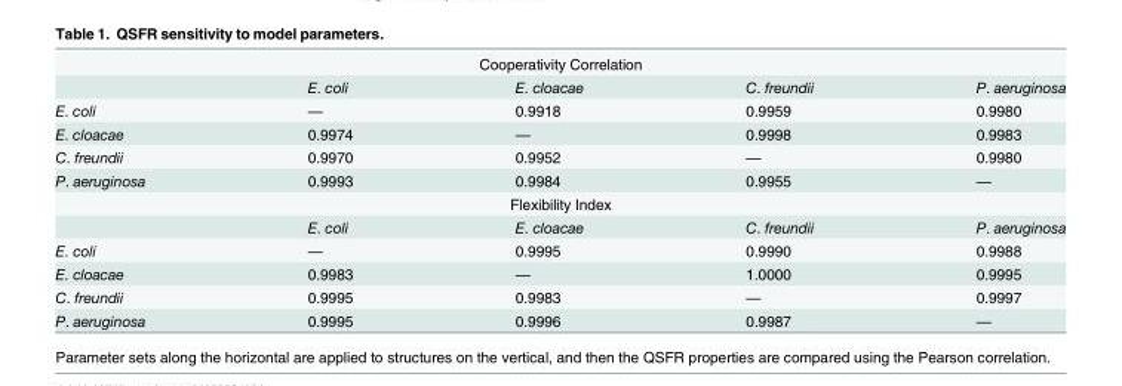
<table><tbody><tr><td colspan="5">Cooperativity Correlation</td></tr><tr><td></td><td>E. coli</td><td>E. cloacae</td><td>C. freundii</td><td>P. aeruginosa</td></tr><tr><td>E. coli</td><td>—</td><td>0.9918</td><td>0.9959</td><td>0.9980</td></tr><tr><td>E. cloacae</td><td>0.9974</td><td>—</td><td>0.9998</td><td>0.9983</td></tr><tr><td>C. freundii</td><td>0.9970</td><td>0.9952</td><td>—</td><td>0.9980</td></tr><tr><td>P. aeruginosa</td><td>0.9993</td><td>0.9984</td><td>0.9955</td><td>—</td></tr><tr><td colspan="5">Flexibility Index</td></tr><tr><td></td><td>E. coli</td><td>E. cloacae</td><td>C. freundii</td><td>P. aeruginosa</td></tr><tr><td>E. coli</td><td>—</td><td>0.9995</td><td>0.9990</td><td>0.9988</td></tr><tr><td>E. cloacae</td><td>0.9983</td><td>—</td><td>1.0000</td><td>0.9995</td></tr><tr><td>C. freundii</td><td>0.9995</td><td>0.9983</td><td>—</td><td>0.9997</td></tr><tr><td>P. aeruginosa</td><td>0.9995</td><td>0.9996</td><td>0.9987</td><td>—</td></tr></tbody></table>